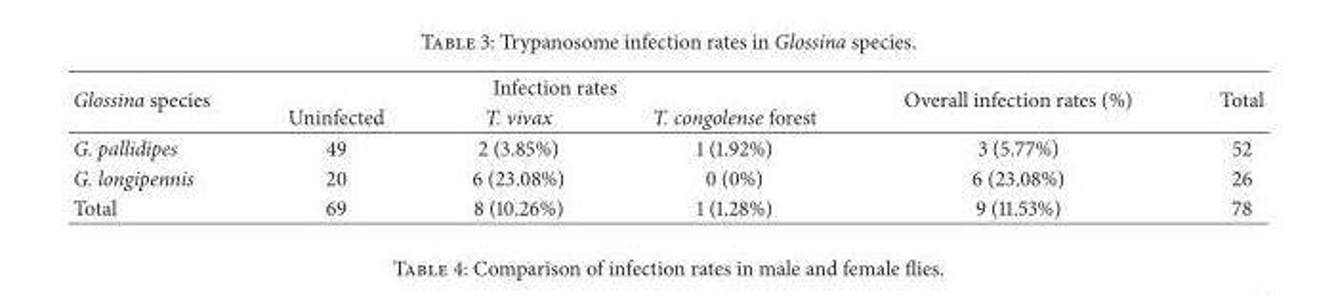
<table><thead><tr><td rowspan="2">Glossina species</td><td colspan="3">Infection rates</td><td rowspan="2">Overall infection rates (%)</td><td rowspan="2">Total</td></tr><tr><td>Uninfected</td><td>T. vivax</td><td>T. congolense forest</td></tr></thead><tbody><tr><td>G. pallidipes</td><td>49</td><td>2 (3.85%)</td><td>1 (1.92%)</td><td>3 (5.77%)</td><td>52</td></tr><tr><td>G. longipennis</td><td>20</td><td>6 (23.08%)</td><td>0 (0%)</td><td>6 (23.08%)</td><td>26</td></tr><tr><td>Total</td><td>69</td><td>8 (10.26%)</td><td>1 (1.28%)</td><td>9 (11.53%)</td><td>78</td></tr></tbody></table>